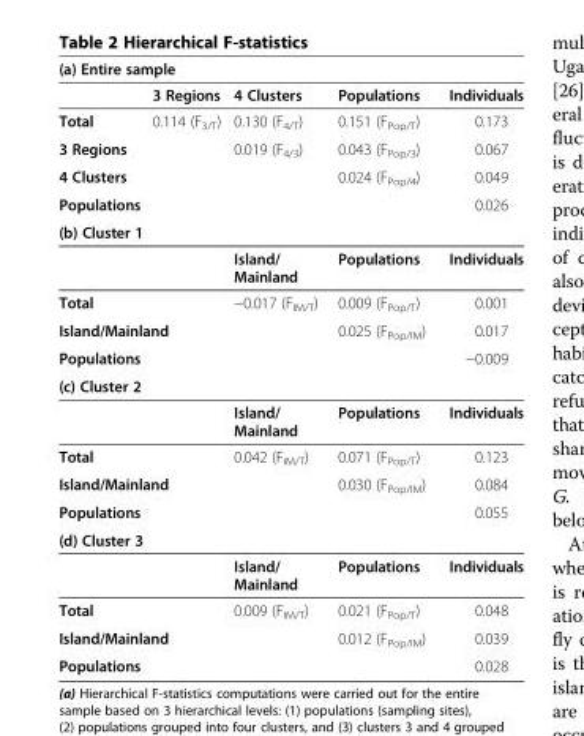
<table><thead><tr><td colspan="5">(a) Entire sample</td></tr><tr><td></td><td>3 Regions</td><td>4 Clusters</td><td>Populations</td><td>Individuals</td></tr></thead><tbody><tr><td>Total</td><td>0.114 (F<sub>3/T</sub>)</td><td>0.130 (F<sub>4/T</sub>)</td><td>0.151 (F<sub>Pop/T</sub>)</td><td>0.173</td></tr><tr><td>3 Regions</td><td></td><td>0.019 (F<sub>4/3</sub>)</td><td>0.043 (F<sub>Pop/3</sub>)</td><td>0.067</td></tr><tr><td>4 Clusters</td><td></td><td></td><td>0.024 (F<sub>Pop/4</sub>)</td><td>0.049</td></tr><tr><td>Populations</td><td></td><td></td><td></td><td>0.026</td></tr><tr><td colspan="5">(b) Cluster 1</td></tr><tr><td colspan="2"></td><td>Island/ Mainland</td><td>Populations</td><td>Individuals</td></tr><tr><td colspan="2">Total</td><td>−0.017 (F<sub>IM/T</sub>)</td><td>0.009 (F<sub>Pop/T</sub>)</td><td>0.001</td></tr><tr><td colspan="2">Island/Mainland</td><td></td><td>0.025 (F<sub>Pop/IM</sub>)</td><td>0.017</td></tr><tr><td colspan="2">Populations</td><td></td><td></td><td>−0.009</td></tr><tr><td colspan="5">(c) Cluster 2</td></tr><tr><td colspan="2"></td><td>Island/ Mainland</td><td>Populations</td><td>Individuals</td></tr><tr><td colspan="2">Total</td><td>0.042 (F<sub>IM/T</sub>)</td><td>0.071 (F<sub>Pop/T</sub>)</td><td>0.123</td></tr><tr><td colspan="2">Island/Mainland</td><td></td><td>0.030 (F<sub>Pop/IM</sub>)</td><td>0.084</td></tr><tr><td colspan="2">Populations</td><td></td><td></td><td>0.055</td></tr><tr><td colspan="5">(d) Cluster 3</td></tr><tr><td colspan="2"></td><td>Island/ Mainland</td><td>Populations</td><td>Individuals</td></tr><tr><td colspan="2">Total</td><td>0.009 (F<sub>IM/T</sub>)</td><td>0.021 (F<sub>Pop/T</sub>)</td><td>0.048</td></tr><tr><td colspan="2">Island/Mainland</td><td></td><td>0.012 (F<sub>Pop/IM</sub>)</td><td>0.039</td></tr><tr><td colspan="2">Populations</td><td></td><td></td><td>0.028</td></tr></tbody></table>